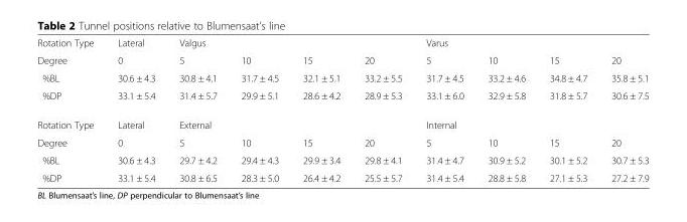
<table><tbody><tr><td>Rotation Type</td><td>Lateral</td><td colspan="4">Valgus</td><td colspan="4">Varus</td></tr><tr><td>Degree</td><td>0</td><td>5</td><td>10</td><td>15</td><td>20</td><td>5</td><td>10</td><td>15</td><td>20</td></tr><tr><td>%BL</td><td>30.6 ± 4.3</td><td>30.8 ± 4.1</td><td>31.7 ± 4.5</td><td>32.1 ± 5.1</td><td>33.2 ± 5.5</td><td>31.7 ± 4.5</td><td>33.2 ± 4.6</td><td>34.8 ± 4.7</td><td>35.8 ± 5.1</td></tr><tr><td>%DP</td><td>33.1 ± 5.4</td><td>31.4 ± 5.7</td><td>29.9 ± 5.1</td><td>28.6 ± 4.2</td><td>28.9 ± 5.3</td><td>33.1 ± 6.0</td><td>32.9 ± 5.8</td><td>31.8 ± 5.7</td><td>30.6 ± 7.5</td></tr><tr><td>Rotation Type</td><td>Lateral</td><td colspan="4">External</td><td colspan="4">Internal</td></tr><tr><td>Degree</td><td>0</td><td>5</td><td>10</td><td>15</td><td>20</td><td>5</td><td>10</td><td>15</td><td>20</td></tr><tr><td>%BL</td><td>30.6 ± 4.3</td><td>29.7 ± 4.2</td><td>29.4 ± 4.3</td><td>29.9 ± 3.4</td><td>29.8 ± 4.1</td><td>31.4 ± 4.7</td><td>30.9 ± 5.2</td><td>30.1 ± 5.2</td><td>30.7 ± 5.3</td></tr><tr><td>%DP</td><td>33.1 ± 5.4</td><td>30.8 ± 6.5</td><td>28.3 ± 5.0</td><td>26.4 ± 4.2</td><td>25.5 ± 5.7</td><td>31.4 ± 5.4</td><td>28.8 ± 5.8</td><td>27.1 ± 5.3</td><td>27.2 ± 7.9</td></tr></tbody></table>